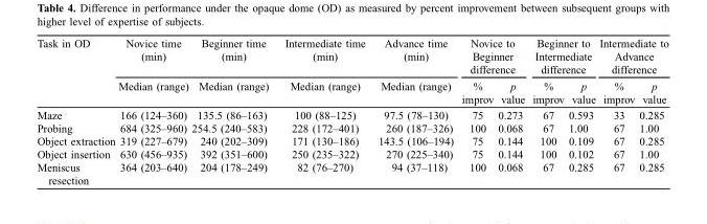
<table><thead><tr><td rowspan="2">Task in OD</td><td rowspan="2">Novice time (min) Median (range)</td><td rowspan="2">Beginner time (min) Median (range)</td><td rowspan="2">Intermediate time (min) Median (range)</td><td rowspan="2">Advance time (min) Median (range)</td><td colspan="2">Novice to Beginner difference</td><td colspan="2">Beginner to Intermediate difference</td><td colspan="2">Intermediate to Advance difference</td></tr><tr><td>% improv</td><td>p value</td><td>% improv</td><td>p value</td><td>% improv</td><td>p value</td></tr></thead><tbody><tr><td>Maze</td><td>166 (124–360)</td><td>135.5 (86–163)</td><td>100 (88–125)</td><td>97.5 (78–130)</td><td>75</td><td>0.273</td><td>67</td><td>0.593</td><td>33</td><td>0.285</td></tr><tr><td>Probing</td><td>684 (325–960)</td><td>254.5 (240–583)</td><td>228 (172–401)</td><td>260 (187–326)</td><td>100</td><td>0.068</td><td>67</td><td>1.00</td><td>67</td><td>1.00</td></tr><tr><td>Object extraction</td><td>319 (227–679)</td><td>240 (202–309)</td><td>171 (130–186)</td><td>143.5 (106–194)</td><td>75</td><td>0.144</td><td>100</td><td>0.109</td><td>67</td><td>0.285</td></tr><tr><td>Object insertion</td><td>630 (456–935)</td><td>392 (351–600)</td><td>250 (235–322)</td><td>270 (225–340)</td><td>75</td><td>0.144</td><td>100</td><td>0.102</td><td>67</td><td>1.00</td></tr><tr><td>Meniscus resection</td><td>364 (203–640)</td><td>204 (178–249)</td><td>82 (76–270)</td><td>94 (37–118)</td><td>100</td><td>0.068</td><td>67</td><td>0.285</td><td>67</td><td>0.285</td></tr></tbody></table>